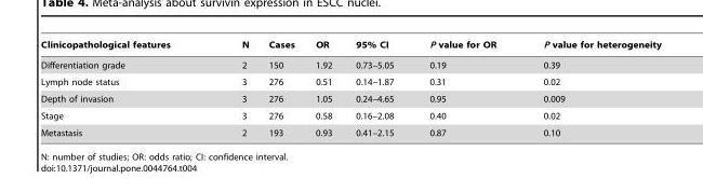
<table><thead><tr><td>Clinicopathological features</td><td>N</td><td>Cases</td><td>OR</td><td>95% CI</td><td>P value for OR</td><td>P value for heterogeneity</td></tr></thead><tbody><tr><td>Differentiation grade</td><td>2</td><td>150</td><td>1.92</td><td>0.73–5.05</td><td>0.19</td><td>0.39</td></tr><tr><td>Lymph node status</td><td>3</td><td>276</td><td>0.51</td><td>0.14–1.87</td><td>0.31</td><td>0.02</td></tr><tr><td>Depth of invasion</td><td>3</td><td>276</td><td>1.05</td><td>0.24–4.65</td><td>0.95</td><td>0.009</td></tr><tr><td>Stage</td><td>3</td><td>276</td><td>0.58</td><td>0.16–2.08</td><td>0.40</td><td>0.02</td></tr><tr><td>Metastasis</td><td>2</td><td>193</td><td>0.93</td><td>0.41–2.15</td><td>0.87</td><td>0.10</td></tr></tbody></table>